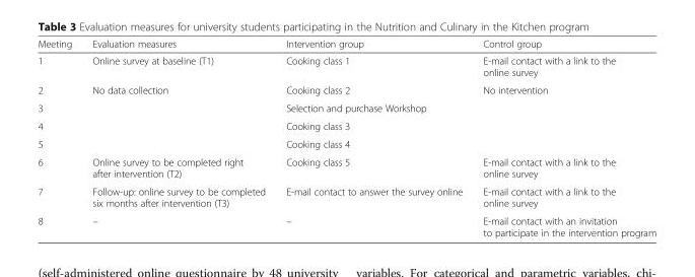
<table><thead><tr><td>Meeting</td><td>Evaluation measures</td><td>Intervention group</td><td>Control group</td></tr></thead><tbody><tr><td>1</td><td>Online survey at baseline (T1)</td><td>Cooking class 1</td><td>E-mail contact with a link to the online survey</td></tr><tr><td>2</td><td rowspan="4">No data collection</td><td>Cooking class 2</td><td rowspan="4">No intervention</td></tr><tr><td>3</td><td>Selection and purchase Workshop</td></tr><tr><td>4</td><td>Cooking class 3</td></tr><tr><td>5</td><td>Cooking class 4</td></tr><tr><td>6</td><td>Online survey to be completed right after intervention (T2)</td><td>Cooking class 5</td><td>E-mail contact with a link to the online survey</td></tr><tr><td>7</td><td>Follow-up: online survey to be completed six months after intervention (T3)</td><td>E-mail contact to answer the survey online</td><td>E-mail contact with a link to the online survey</td></tr><tr><td>8</td><td>–</td><td>–</td><td>E-mail contact with an invitation to participate in the intervention program</td></tr></tbody></table>